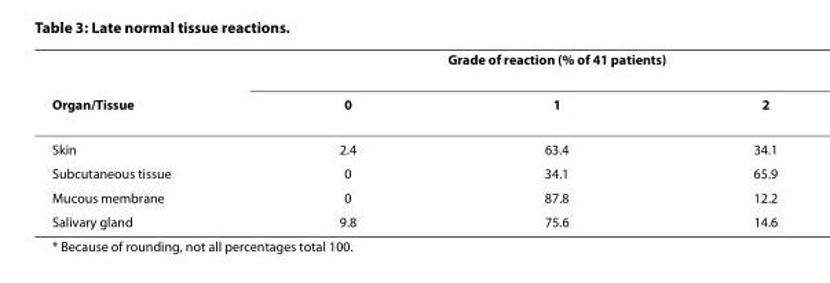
<table><thead><tr><td rowspan="2">Organ/Tissue</td><td colspan="3">Grade of reaction (% of 41 patients)</td></tr><tr><td>0</td><td>1</td><td>2</td></tr></thead><tbody><tr><td>Skin</td><td>2.4</td><td>63.4</td><td>34.1</td></tr><tr><td>Subcutaneous tissue</td><td>0</td><td>34.1</td><td>65.9</td></tr><tr><td>Mucous membrane</td><td>0</td><td>87.8</td><td>12.2</td></tr><tr><td>Salivary gland</td><td>9.8</td><td>75.6</td><td>14.6</td></tr></tbody></table>